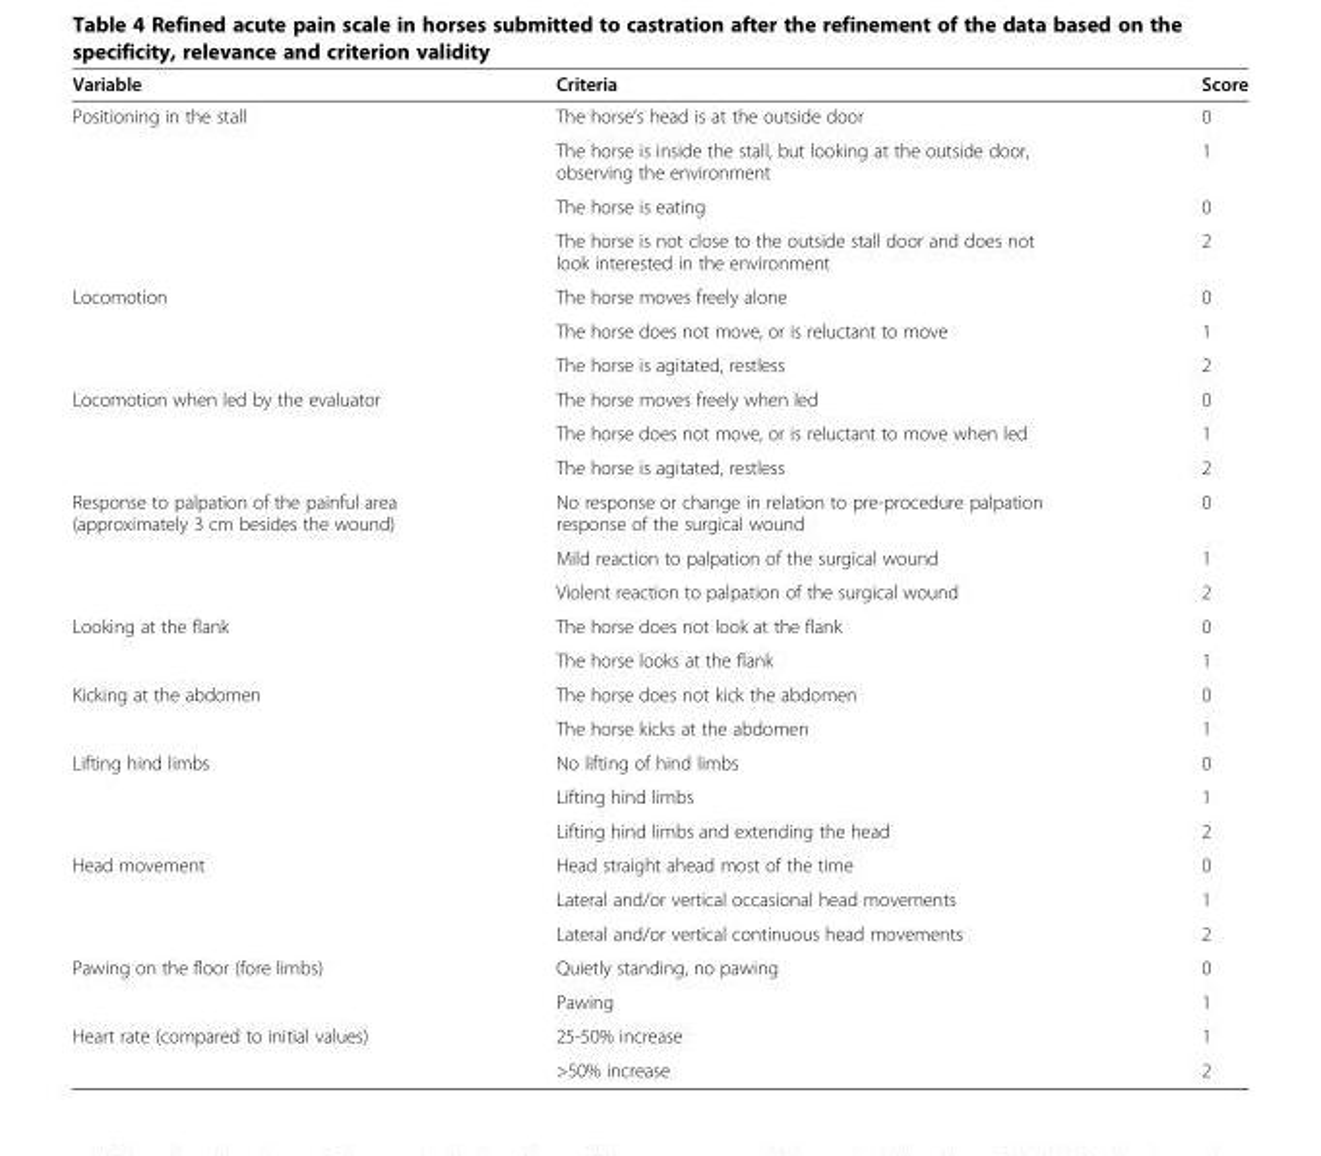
<table><thead><tr><td>Variable</td><td>Criteria</td><td>Score</td></tr></thead><tbody><tr><td rowspan="4">Positioning in the stall</td><td>The horse’s head is at the outside door</td><td>0</td></tr><tr><td>The horse is inside the stall, but looking at the outside door, observing the environment</td><td>1</td></tr><tr><td>The horse is eating</td><td>0</td></tr><tr><td>The horse is not close to the outside stall door and does not look interested in the environment</td><td>2</td></tr><tr><td rowspan="3">Locomotion</td><td>The horse moves freely alone</td><td>0</td></tr><tr><td>The horse does not move, or is reluctant to move</td><td>1</td></tr><tr><td>The horse is agitated, restless</td><td>2</td></tr><tr><td rowspan="3">Locomotion when led by the evaluator</td><td>The horse moves freely when led</td><td>0</td></tr><tr><td>The horse does not move, or is reluctant to move when led</td><td>1</td></tr><tr><td>The horse is agitated, restless</td><td>2</td></tr><tr><td rowspan="3">Response to palpation of the painful area (approximately 3 cm besides the wound)</td><td>No response or change in relation to pre-procedure palpation response of the surgical wound</td><td>0</td></tr><tr><td>Mild reaction to palpation of the surgical wound</td><td>1</td></tr><tr><td>Violent reaction to palpation of the surgical wound</td><td>2</td></tr><tr><td rowspan="2">Looking at the flank</td><td>The horse does not look at the flank</td><td>0</td></tr><tr><td>The horse looks at the flank</td><td>1</td></tr><tr><td rowspan="2">Kicking at the abdomen</td><td>The horse does not kick the abdomen</td><td>0</td></tr><tr><td>The horse kicks at the abdomen</td><td>1</td></tr><tr><td rowspan="3">Lifting hind limbs</td><td>No lifting of hind limbs</td><td>0</td></tr><tr><td>Lifting hind limbs</td><td>1</td></tr><tr><td>Lifting hind limbs and extending the head</td><td>2</td></tr><tr><td rowspan="3">Head movement</td><td>Head straight ahead most of the time</td><td>0</td></tr><tr><td>Lateral and/or vertical occasional head movements</td><td>1</td></tr><tr><td>Lateral and/or vertical continuous head movements</td><td>2</td></tr><tr><td rowspan="2">Pawing on the floor (fore limbs)</td><td>Quietly standing, no pawing</td><td>0</td></tr><tr><td>Pawing</td><td>1</td></tr><tr><td rowspan="2">Heart rate (compared to initial values)</td><td>25-50% increase</td><td>1</td></tr><tr><td>&gt;50% increase</td><td>2</td></tr></tbody></table>